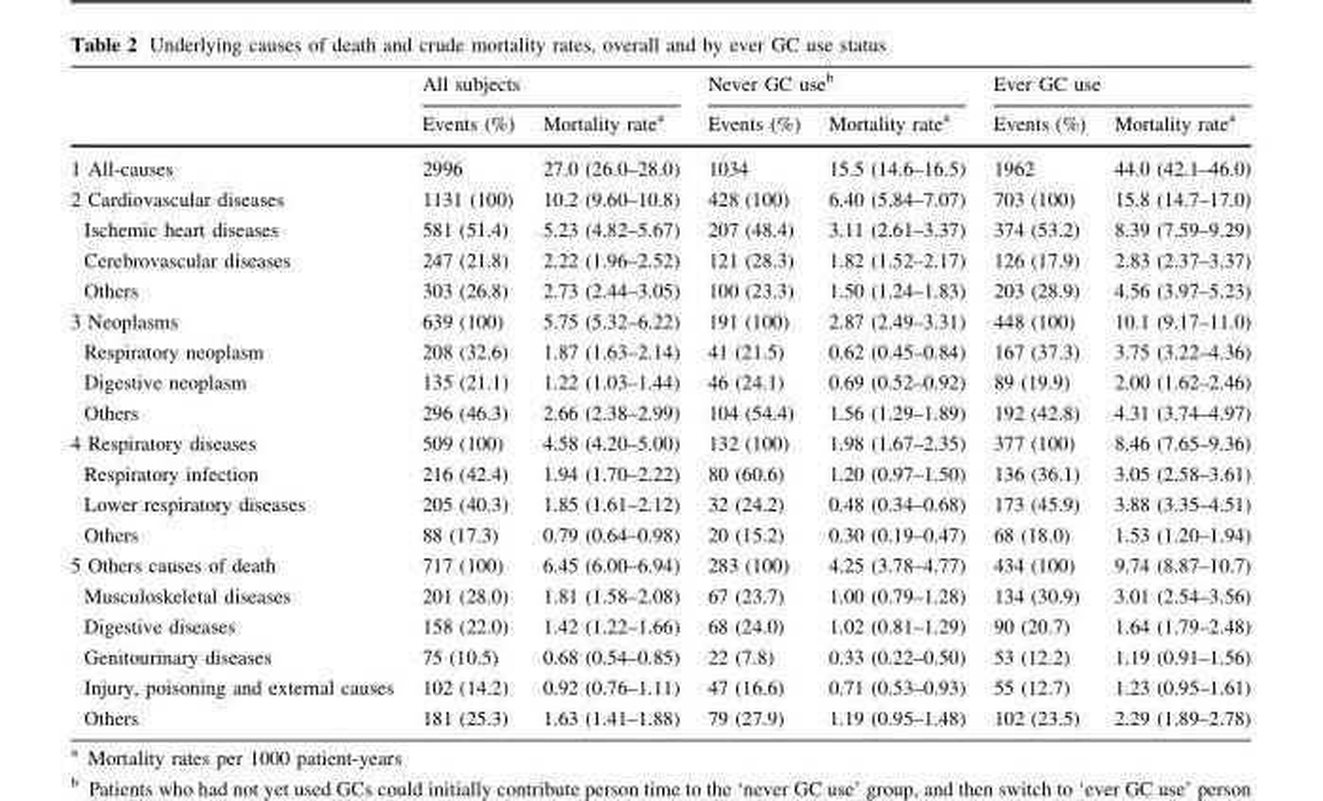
<table><thead><tr><td rowspan="2"></td><td colspan="2">All subjects</td><td colspan="2">Never GC use<sup>b</sup></td><td colspan="2">Ever GC use</td></tr><tr><td>Events (%)</td><td>Mortality rate<sup>a</sup></td><td>Events (%)</td><td>Mortality rate<sup>a</sup></td><td>Events (%)</td><td>Mortality rate<sup>a</sup></td></tr></thead><tbody><tr><td>1 All-causes</td><td>2996</td><td>27.0 (26.0–28.0)</td><td>1034</td><td>15.5 (14.6–16.5)</td><td>1962</td><td>44.0 (42.1–46.0)</td></tr><tr><td>2 Cardiovascular diseases</td><td>1131 (100)</td><td>10.2 (9.60–10.8)</td><td>428 (100)</td><td>6.40 (5.84–7.07)</td><td>703 (100)</td><td>15.8 (14.7–17.0)</td></tr><tr><td>Ischemic heart diseases</td><td>581 (51.4)</td><td>5.23 (4.82–5.67)</td><td>207 (48.4)</td><td>3.11 (2.61–3.37)</td><td>374 (53.2)</td><td>8.39 (7.59–9.29)</td></tr><tr><td>Cerebrovascular diseases</td><td>247 (21.8)</td><td>2.22 (1.96–2.52)</td><td>121 (28.3)</td><td>1.82 (1.52–2.17)</td><td>126 (17.9)</td><td>2.83 (2.37–3.37)</td></tr><tr><td>Others</td><td>303 (26.8)</td><td>2.73 (2.44–3.05)</td><td>100 (23.3)</td><td>1.50 (1.24–1.83)</td><td>203 (28.9)</td><td>4.56 (3.97–5.23)</td></tr><tr><td>3 Neoplasms</td><td>639 (100)</td><td>5.75 (5.32–6.22)</td><td>191 (100)</td><td>2.87 (2.49–3.31)</td><td>448 (100)</td><td>10.1 (9.17–11.0)</td></tr><tr><td>Respiratory neoplasm</td><td>208 (32.6)</td><td>1.87 (1.63–2.14)</td><td>41 (21.5)</td><td>0.62 (0.45–0.84)</td><td>167 (37.3)</td><td>3.75 (3.22–4.36)</td></tr><tr><td>Digestive neoplasm</td><td>135 (21.1)</td><td>1.22 (1.03–1.44)</td><td>46 (24.1)</td><td>0.69 (0.52–0.92)</td><td>89 (19.9)</td><td>2.00 (1.62–2.46)</td></tr><tr><td>Others</td><td>296 (46.3)</td><td>2.66 (2.38–2.99)</td><td>104 (54.4)</td><td>1.56 (1.29–1.89)</td><td>192 (42.8)</td><td>4.31 (3.74–4.97)</td></tr><tr><td>4 Respiratory diseases</td><td>509 (100)</td><td>4.58 (4.20–5.00)</td><td>132 (100)</td><td>1.98 (1.67–2.35)</td><td>377 (100)</td><td>8.46 (7.65–9.36)</td></tr><tr><td>Respiratory infection</td><td>216 (42.4)</td><td>1.94 (1.70–2.22)</td><td>80 (60.6)</td><td>1.20 (0.97–1.50)</td><td>136 (36.1)</td><td>3.05 (2.58–3.61)</td></tr><tr><td>Lower respiratory diseases</td><td>205 (40.3)</td><td>1.85 (1.61–2.12)</td><td>32 (24.2)</td><td>0.48 (0.34–0.68)</td><td>173 (45.9)</td><td>3.88 (3.35–4.51)</td></tr><tr><td>Others</td><td>88 (17.3)</td><td>0.79 (0.64–0.98)</td><td>20 (15.2)</td><td>0.30 (0.19–0.47)</td><td>68 (18.0)</td><td>1.53 (1.20–1.94)</td></tr><tr><td>5 Others causes of death</td><td>717 (100)</td><td>6.45 (6.00–6.94)</td><td>283 (100)</td><td>4.25 (3.78–4.77)</td><td>434 (100)</td><td>9.74 (8.87–10.7)</td></tr><tr><td>Musculoskeletal diseases</td><td>201 (28.0)</td><td>1.81 (1.58–2.08)</td><td>67 (23.7)</td><td>1.00 (0.79–1.28)</td><td>134 (30.9)</td><td>3.01 (2.54–3.56)</td></tr><tr><td>Digestive diseases</td><td>158 (22.0)</td><td>1.42 (1.22–1.66)</td><td>68 (24.0)</td><td>1.02 (0.81–1.29)</td><td>90 (20.7)</td><td>1.64 (1.79–2.48)</td></tr><tr><td>Genitourinary diseases</td><td>75 (10.5)</td><td>0.68 (0.54–0.85)</td><td>22 (7.8)</td><td>0.33 (0.22–0.50)</td><td>53 (12.2)</td><td>1.19 (0.91–1.56)</td></tr><tr><td>Injury, poisoning and external causes</td><td>102 (14.2)</td><td>0.92 (0.76–1.11)</td><td>47 (16.6)</td><td>0.71 (0.53–0.93)</td><td>55 (12.7)</td><td>1.23 (0.95–1.61)</td></tr><tr><td>Others</td><td>181 (25.3)</td><td>1.63 (1.41–1.88)</td><td>79 (27.9)</td><td>1.19 (0.95–1.48)</td><td>102 (23.5)</td><td>2.29 (1.89–2.78)</td></tr></tbody></table>